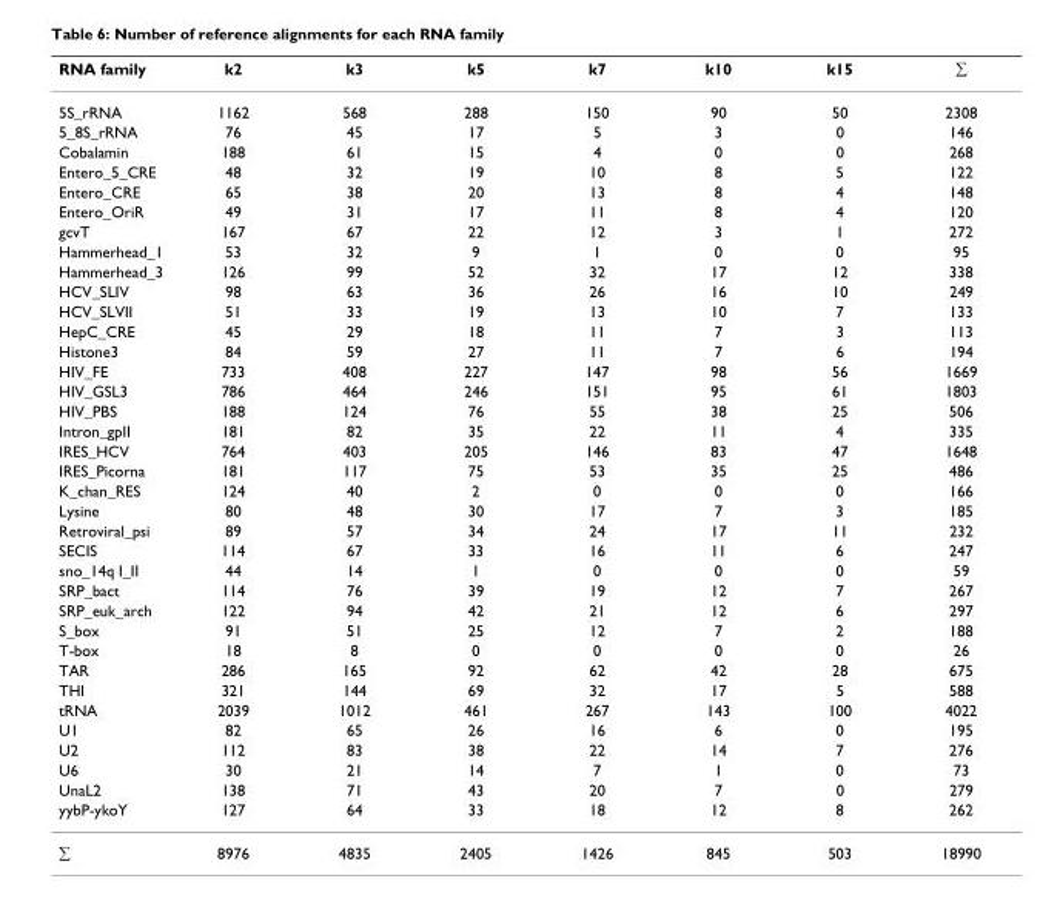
<table><thead><tr><td>RNA family</td><td>k2</td><td>k3</td><td>k5</td><td>k7</td><td>k10</td><td>k15</td><td>∑</td></tr></thead><tbody><tr><td>5S_rRNA</td><td>1162</td><td>568</td><td>288</td><td>150</td><td>90</td><td>50</td><td>2308</td></tr><tr><td>5_8S_rRNA</td><td>76</td><td>45</td><td>17</td><td>5</td><td>3</td><td>0</td><td>146</td></tr><tr><td>Cobalamin</td><td>188</td><td>61</td><td>15</td><td>4</td><td>0</td><td>0</td><td>268</td></tr><tr><td>Entero_5_CRE</td><td>48</td><td>32</td><td>19</td><td>10</td><td>8</td><td>5</td><td>122</td></tr><tr><td>Entero_CRE</td><td>65</td><td>38</td><td>20</td><td>13</td><td>8</td><td>4</td><td>148</td></tr><tr><td>Entero_OriR</td><td>49</td><td>31</td><td>17</td><td>11</td><td>8</td><td>4</td><td>120</td></tr><tr><td>gcvT</td><td>167</td><td>67</td><td>22</td><td>12</td><td>3</td><td>1</td><td>272</td></tr><tr><td>Hammerhead_1</td><td>53</td><td>32</td><td>9</td><td>1</td><td>0</td><td>0</td><td>95</td></tr><tr><td>Hammerhead_3</td><td>126</td><td>99</td><td>52</td><td>32</td><td>17</td><td>12</td><td>338</td></tr><tr><td>HCV_SLIV</td><td>98</td><td>63</td><td>36</td><td>26</td><td>16</td><td>10</td><td>249</td></tr><tr><td>HCV_SLVII</td><td>51</td><td>33</td><td>19</td><td>13</td><td>10</td><td>7</td><td>133</td></tr><tr><td>HepC_CRE</td><td>45</td><td>29</td><td>18</td><td>11</td><td>7</td><td>3</td><td>113</td></tr><tr><td>Histone3</td><td>84</td><td>59</td><td>27</td><td>11</td><td>7</td><td>6</td><td>194</td></tr><tr><td>HIV_FE</td><td>733</td><td>408</td><td>227</td><td>147</td><td>98</td><td>56</td><td>1669</td></tr><tr><td>HIV_GSL3</td><td>786</td><td>464</td><td>246</td><td>151</td><td>95</td><td>61</td><td>1803</td></tr><tr><td>HIV_PBS</td><td>188</td><td>124</td><td>76</td><td>55</td><td>38</td><td>25</td><td>506</td></tr><tr><td>Intron_gpII</td><td>181</td><td>82</td><td>35</td><td>22</td><td>11</td><td>4</td><td>335</td></tr><tr><td>IRES_HCV</td><td>764</td><td>403</td><td>205</td><td>146</td><td>83</td><td>47</td><td>1648</td></tr><tr><td>IRES_Picorna</td><td>181</td><td>117</td><td>75</td><td>53</td><td>35</td><td>25</td><td>486</td></tr><tr><td>K_chan_RES</td><td>124</td><td>40</td><td>2</td><td>0</td><td>0</td><td>0</td><td>166</td></tr><tr><td>Lysine</td><td>80</td><td>48</td><td>30</td><td>17</td><td>7</td><td>3</td><td>185</td></tr><tr><td>Retroviral_psi</td><td>89</td><td>57</td><td>34</td><td>24</td><td>17</td><td>11</td><td>232</td></tr><tr><td>SECIS</td><td>114</td><td>67</td><td>33</td><td>16</td><td>11</td><td>6</td><td>247</td></tr><tr><td>sno_14q I_II</td><td>44</td><td>14</td><td>1</td><td>0</td><td>0</td><td>0</td><td>59</td></tr><tr><td>SRP_bact</td><td>114</td><td>76</td><td>39</td><td>19</td><td>12</td><td>7</td><td>267</td></tr><tr><td>SRP_euk_arch</td><td>122</td><td>94</td><td>42</td><td>21</td><td>12</td><td>6</td><td>297</td></tr><tr><td>S_box</td><td>91</td><td>51</td><td>25</td><td>12</td><td>7</td><td>2</td><td>188</td></tr><tr><td>T-box</td><td>18</td><td>8</td><td>0</td><td>0</td><td>0</td><td>0</td><td>26</td></tr><tr><td>TAR</td><td>286</td><td>165</td><td>92</td><td>62</td><td>42</td><td>28</td><td>675</td></tr><tr><td>THI</td><td>321</td><td>144</td><td>69</td><td>32</td><td>17</td><td>5</td><td>588</td></tr><tr><td>tRNA</td><td>2039</td><td>1012</td><td>461</td><td>267</td><td>143</td><td>100</td><td>4022</td></tr><tr><td>U1</td><td>82</td><td>65</td><td>26</td><td>16</td><td>6</td><td>0</td><td>195</td></tr><tr><td>U2</td><td>112</td><td>83</td><td>38</td><td>22</td><td>14</td><td>7</td><td>276</td></tr><tr><td>U6</td><td>30</td><td>21</td><td>14</td><td>7</td><td>1</td><td>0</td><td>73</td></tr><tr><td>UnaL2</td><td>138</td><td>71</td><td>43</td><td>20</td><td>7</td><td>0</td><td>279</td></tr><tr><td>yybP-ykoY</td><td>127</td><td>64</td><td>33</td><td>18</td><td>12</td><td>8</td><td>262</td></tr><tr><td>∑</td><td>8976</td><td>4835</td><td>2405</td><td>1426</td><td>845</td><td>503</td><td>18990</td></tr></tbody></table>